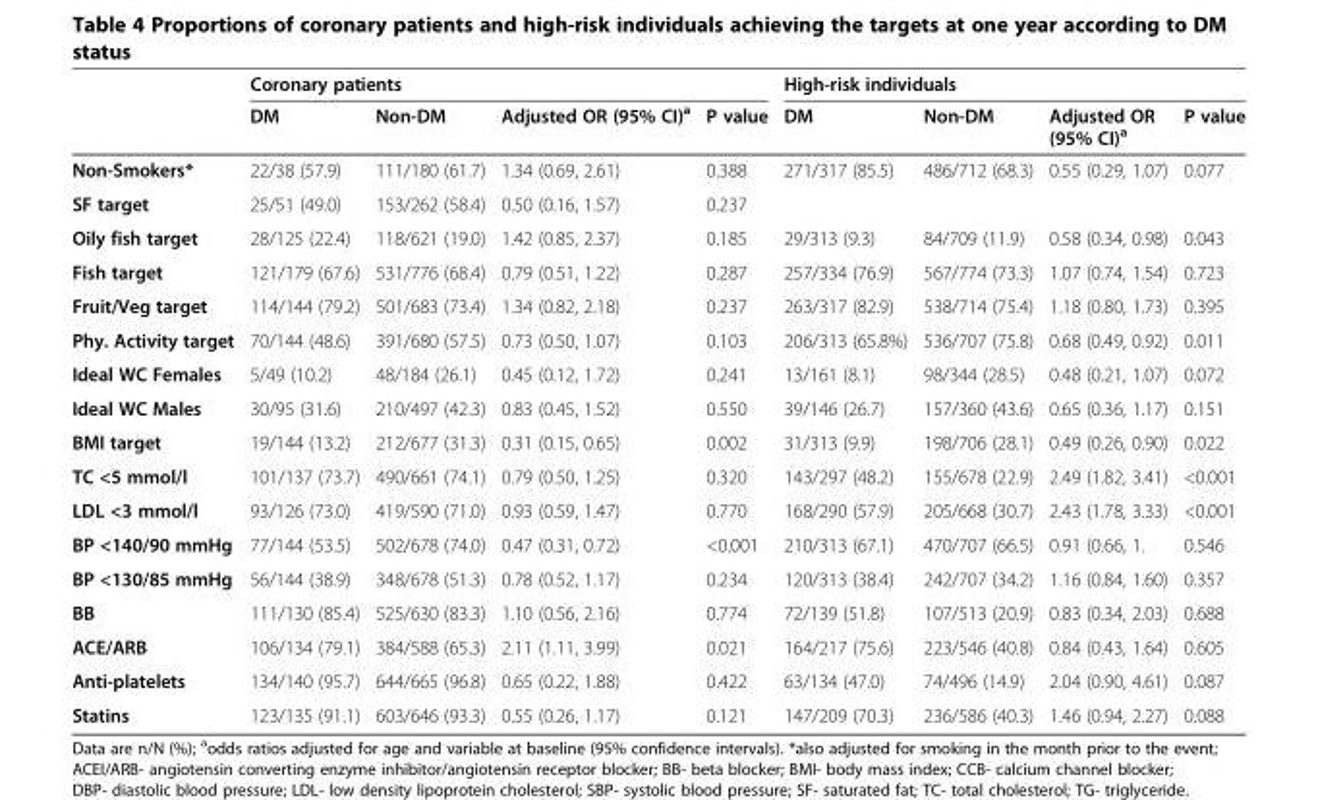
<table><thead><tr><td rowspan="2"></td><td colspan="4">Coronary patients</td><td colspan="4">High-risk individuals</td></tr><tr><td>DM</td><td>Non-DM</td><td>Adjusted OR (95% CI)<sup>a</sup></td><td>P value</td><td>DM</td><td>Non-DM</td><td>Adjusted OR (95% CI)<sup>a</sup></td><td>P value</td></tr></thead><tbody><tr><td>Non-Smokers*</td><td>22/38 (57.9)</td><td>111/180 (61.7)</td><td>1.34 (0.69, 2.61)</td><td>0.388</td><td>271/317 (85.5)</td><td>486/712 (68.3)</td><td>0.55 (0.29, 1.07)</td><td>0.077</td></tr><tr><td>SF target</td><td>25/51 (49.0)</td><td>153/262 (58.4)</td><td>0.50 (0.16, 1.57)</td><td>0.237</td><td></td><td></td><td></td><td></td></tr><tr><td>Oily fish target</td><td>28/125 (22.4)</td><td>118/621 (19.0)</td><td>1.42 (0.85, 2.37)</td><td>0.185</td><td>29/313 (9.3)</td><td>84/709 (11.9)</td><td>0.58 (0.34, 0.98)</td><td>0.043</td></tr><tr><td>Fish target</td><td>121/179 (67.6)</td><td>531/776 (68.4)</td><td>0.79 (0.51, 1.22)</td><td>0.287</td><td>257/334 (76.9)</td><td>567/774 (73.3)</td><td>1.07 (0.74, 1.54)</td><td>0.723</td></tr><tr><td>Fruit/Veg target</td><td>114/144 (79.2)</td><td>501/683 (73.4)</td><td>1.34 (0.82, 2.18)</td><td>0.237</td><td>263/317 (82.9)</td><td>538/714 (75.4)</td><td>1.18 (0.80, 1.73)</td><td>0.395</td></tr><tr><td>Phy. Activity target</td><td>70/144 (48.6)</td><td>391/680 (57.5)</td><td>0.73 (0.50, 1.07)</td><td>0.103</td><td>206/313 (65.8%)</td><td>536/707 (75.8)</td><td>0.68 (0.49, 0.92)</td><td>0.011</td></tr><tr><td>Ideal WC Females</td><td>5/49 (10.2)</td><td>48/184 (26.1)</td><td>0.45 (0.12, 1.72)</td><td>0.241</td><td>13/161 (8.1)</td><td>98/344 (28.5)</td><td>0.48 (0.21, 1.07)</td><td>0.072</td></tr><tr><td>Ideal WC Males</td><td>30/95 (31.6)</td><td>210/497 (42.3)</td><td>0.83 (0.45, 1.52)</td><td>0.550</td><td>39/146 (26.7)</td><td>157/360 (43.6)</td><td>0.65 (0.36, 1.17)</td><td>0.151</td></tr><tr><td>BMI target</td><td>19/144 (13.2)</td><td>212/677 (31.3)</td><td>0.31 (0.15, 0.65)</td><td>0.002</td><td>31/313 (9.9)</td><td>198/706 (28.1)</td><td>0.49 (0.26, 0.90)</td><td>0.022</td></tr><tr><td>TC &lt;5 mmol/l</td><td>101/137 (73.7)</td><td>490/661 (74.1)</td><td>0.79 (0.50, 1.25)</td><td>0.320</td><td>143/297 (48.2)</td><td>155/678 (22.9)</td><td>2.49 (1.82, 3.41)</td><td>&lt;0.001</td></tr><tr><td>LDL &lt;3 mmol/l</td><td>93/126 (73.0)</td><td>419/590 (71.0)</td><td>0.93 (0.59, 1.47)</td><td>0.770</td><td>168/290 (57.9)</td><td>205/668 (30.7)</td><td>2.43 (1.78, 3.33)</td><td>&lt;0.001</td></tr><tr><td>BP &lt;140/90 mmHg</td><td>77/144 (53.5)</td><td>502/678 (74.0)</td><td>0.47 (0.31, 0.72)</td><td>&lt;0.001</td><td>210/313 (67.1)</td><td>470/707 (66.5)</td><td>0.91 (0.66, 1.</td><td>0.546</td></tr><tr><td>BP &lt;130/85 mmHg</td><td>56/144 (38.9)</td><td>348/678 (51.3)</td><td>0.78 (0.52, 1.17)</td><td>0.234</td><td>120/313 (38.4)</td><td>242/707 (34.2)</td><td>1.16 (0.84, 1.60)</td><td>0.357</td></tr><tr><td>BB</td><td>111/130 (85.4)</td><td>525/630 (83.3)</td><td>1.10 (0.56, 2.16)</td><td>0.774</td><td>72/139 (51.8)</td><td>107/513 (20.9)</td><td>0.83 (0.34, 2.03)</td><td>0.688</td></tr><tr><td>ACE/ARB</td><td>106/134 (79.1)</td><td>384/588 (65.3)</td><td>2.11 (1.11, 3.99)</td><td>0.021</td><td>164/217 (75.6)</td><td>223/546 (40.8)</td><td>0.84 (0.43, 1.64)</td><td>0.605</td></tr><tr><td>Anti-platelets</td><td>134/140 (95.7)</td><td>644/665 (96.8)</td><td>0.65 (0.22, 1.88)</td><td>0.422</td><td>63/134 (47.0)</td><td>74/496 (14.9)</td><td>2.04 (0.90, 4.61)</td><td>0.087</td></tr><tr><td>Statins</td><td>123/135 (91.1)</td><td>603/646 (93.3)</td><td>0.55 (0.26, 1.17)</td><td>0.121</td><td>147/209 (70.3)</td><td>236/586 (40.3)</td><td>1.46 (0.94, 2.27)</td><td>0.088</td></tr></tbody></table>